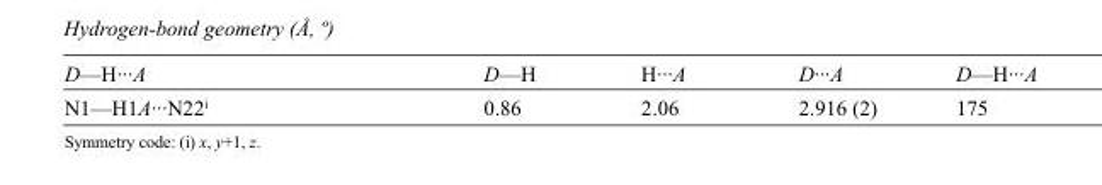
<table><tbody><tr><td>D—H···A</td><td>D—H</td><td>H···A</td><td>D···A</td><td>D—H···A</td></tr><tr><td>N1—H1A···N22<sup>i</sup></td><td>0.86</td><td>2.06</td><td>2.916 (2)</td><td>175</td></tr></tbody></table>